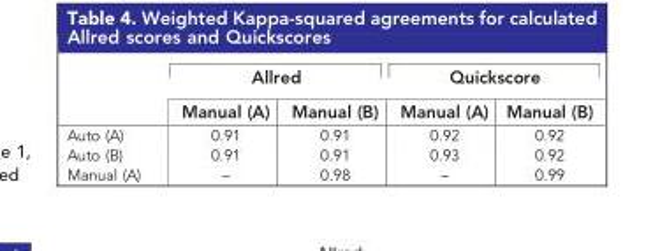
<table><thead><tr><td rowspan="2"></td><td colspan="2">Allred</td><td colspan="2">Quickscore</td></tr><tr><td>Manual (A)</td><td>Manual (B)</td><td>Manual (A)</td><td>Manual (B)</td></tr></thead><tbody><tr><td>Auto (A)</td><td>0.91</td><td>0.91</td><td>0.92</td><td>0.92</td></tr><tr><td>Auto (B)</td><td>0.91</td><td>0.91</td><td>0.93</td><td>0.92</td></tr><tr><td>Manual (A)</td><td>–</td><td>0.98</td><td>–</td><td>0.99</td></tr></tbody></table>